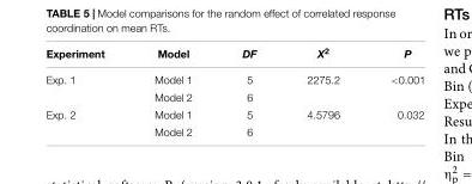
<table><thead><tr><td>Experiment</td><td>Model</td><td>DF</td><td>X<sup>2</sup></td><td>P</td></tr></thead><tbody><tr><td rowspan="2">Exp. 1</td><td>Model 1</td><td>5</td><td>2275.2</td><td>&lt;0.001</td></tr><tr><td>Model 2</td><td>6</td><td></td><td></td></tr><tr><td rowspan="2">Exp. 2</td><td>Model 1</td><td>5</td><td>4.5796</td><td>0.032</td></tr><tr><td>Model 2</td><td>6</td><td></td><td></td></tr></tbody></table>